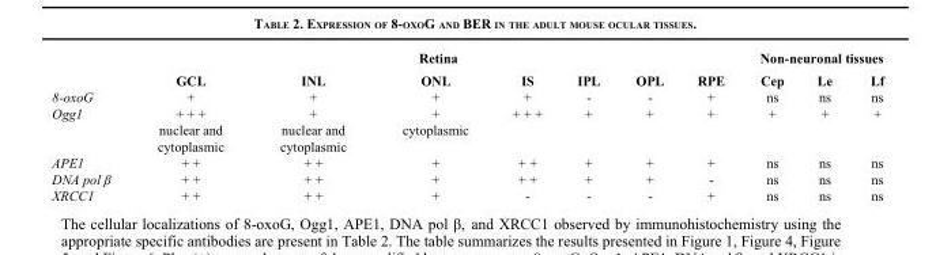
<table><thead><tr><td rowspan="2"></td><td colspan="7">Retina</td><td colspan="3">Non-neuronal tissues</td></tr><tr><td>GCL</td><td>INL</td><td>ONL</td><td>IS</td><td>IPL</td><td>OPL</td><td>RPE</td><td>Cep</td><td>Le</td><td>Lf</td></tr></thead><tbody><tr><td>8-oxoG</td><td>+</td><td>+</td><td>+</td><td>+</td><td>-</td><td>-</td><td>+</td><td>ns</td><td>ns</td><td>ns</td></tr><tr><td rowspan="2">Ogg1</td><td>+ + +</td><td>+</td><td>+</td><td>+ + +</td><td>+</td><td>+</td><td>+</td><td>+</td><td>+</td><td>+</td></tr><tr><td>nuclear and cytoplasmic</td><td>nuclear and cytoplasmic</td><td>cytoplasmic</td><td></td><td></td><td></td><td></td><td></td><td></td><td></td></tr><tr><td>APE1</td><td>+ +</td><td>+ +</td><td>+</td><td>+ +</td><td>+</td><td>+</td><td>+</td><td>ns</td><td>ns</td><td>ns</td></tr><tr><td>DNA pol β</td><td>+ +</td><td>+ +</td><td>+</td><td>+ +</td><td>+</td><td>+</td><td>-</td><td>ns</td><td>ns</td><td>ns</td></tr><tr><td>XRCC1</td><td>+ +</td><td>+ +</td><td>+</td><td>-</td><td>-</td><td>-</td><td>+</td><td>ns</td><td>ns</td><td>ns</td></tr></tbody></table>